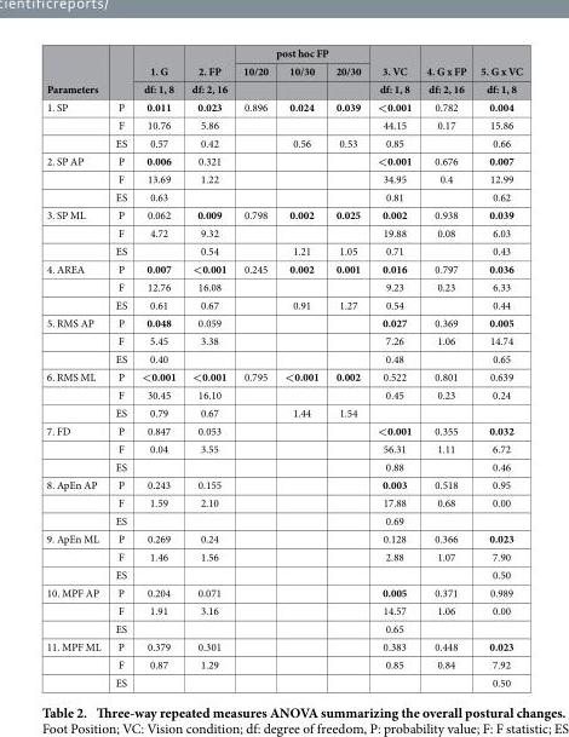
<table><thead><tr><td rowspan="3">Parameters</td><td rowspan="3"></td><td rowspan="3">1. G df: 1, 8</td><td rowspan="3">2. FP df: 2, 16</td><td colspan="3">post hoc FP</td><td rowspan="3">3. VC df: 1, 8</td><td rowspan="3">4. G x FP df: 2, 16</td><td rowspan="3">5. G x VC df: 1, 8</td></tr><tr><td rowspan="2">10/20</td><td rowspan="2">10/30</td><td rowspan="2">20/30</td></tr><tr></tr></thead><tbody><tr><td rowspan="3">1. SP</td><td>P</td><td>0.011</td><td>0.023</td><td>0.896</td><td>0.024</td><td>0.039</td><td>&lt;0.001</td><td>0.782</td><td>0.004</td></tr><tr><td>F</td><td>10.76</td><td>5.86</td><td></td><td></td><td></td><td>44.15</td><td>0.17</td><td>15.86</td></tr><tr><td>ES</td><td>0.57</td><td>0.42</td><td></td><td>0.56</td><td>0.53</td><td>0.85</td><td></td><td>0.66</td></tr><tr><td rowspan="3">2. SP AP</td><td>P</td><td>0.006</td><td>0.321</td><td></td><td></td><td></td><td>&lt;0.001</td><td>0.676</td><td>0.007</td></tr><tr><td>F</td><td>13.69</td><td>1.22</td><td></td><td></td><td></td><td>34.95</td><td>0.4</td><td>12.99</td></tr><tr><td>ES</td><td>0.63</td><td></td><td></td><td></td><td></td><td>0.81</td><td></td><td>0.62</td></tr><tr><td rowspan="3">3. SP ML</td><td>P</td><td>0.062</td><td>0.009</td><td>0.798</td><td>0.002</td><td>0.025</td><td>0.002</td><td>0.938</td><td>0.039</td></tr><tr><td>F</td><td>4.72</td><td>9.32</td><td></td><td></td><td></td><td>19.88</td><td>0.08</td><td>6.03</td></tr><tr><td>ES</td><td></td><td>0.54</td><td></td><td>1.21</td><td>1.05</td><td>0.71</td><td></td><td>0.43</td></tr><tr><td rowspan="3">4. AREA</td><td>P</td><td>0.007</td><td>&lt;0.001</td><td>0.245</td><td>0.002</td><td>0.001</td><td>0.016</td><td>0.797</td><td>0.036</td></tr><tr><td>F</td><td>12.76</td><td>16.08</td><td></td><td></td><td></td><td>9.23</td><td>0.23</td><td>6.33</td></tr><tr><td>ES</td><td>0.61</td><td>0.67</td><td></td><td>0.91</td><td>1.27</td><td>0.54</td><td></td><td>0.44</td></tr><tr><td rowspan="3">5. RMS AP</td><td>P</td><td>0.048</td><td>0.059</td><td></td><td></td><td></td><td>0.027</td><td>0.369</td><td>0.005</td></tr><tr><td>F</td><td>5.45</td><td>3.38</td><td></td><td></td><td></td><td>7.26</td><td>1.06</td><td>14.74</td></tr><tr><td>ES</td><td>0.40</td><td></td><td></td><td></td><td></td><td>0.48</td><td></td><td>0.65</td></tr><tr><td rowspan="3">6. RMS ML</td><td>P</td><td>&lt;0.001</td><td>&lt;0.001</td><td>0.795</td><td>&lt;0.001</td><td>0.002</td><td>0.522</td><td>0.801</td><td>0.639</td></tr><tr><td>F</td><td>30.45</td><td>16.10</td><td></td><td></td><td></td><td>0.45</td><td>0.23</td><td>0.24</td></tr><tr><td>ES</td><td>0.79</td><td>0.67</td><td></td><td>1.44</td><td>1.54</td><td></td><td></td><td></td></tr><tr><td rowspan="3">7. FD</td><td>P</td><td>0.847</td><td>0.053</td><td></td><td></td><td></td><td>&lt;0.001</td><td>0.355</td><td>0.032</td></tr><tr><td>F</td><td>0.04</td><td>3.55</td><td></td><td></td><td></td><td>56.31</td><td>1.11</td><td>6.72</td></tr><tr><td>ES</td><td></td><td></td><td></td><td></td><td></td><td>0.88</td><td></td><td>0.46</td></tr><tr><td rowspan="3">8. ApEn AP</td><td>P</td><td>0.243</td><td>0.155</td><td></td><td></td><td></td><td>0.003</td><td>0.518</td><td>0.95</td></tr><tr><td>F</td><td>1.59</td><td>2.10</td><td></td><td></td><td></td><td>17.88</td><td>0.68</td><td>0.00</td></tr><tr><td>ES</td><td></td><td></td><td></td><td></td><td></td><td>0.69</td><td></td><td></td></tr><tr><td rowspan="3">9. ApEn ML</td><td>P</td><td>0.269</td><td>0.24</td><td></td><td></td><td></td><td>0.128</td><td>0.366</td><td>0.023</td></tr><tr><td>F</td><td>1.46</td><td>1.56</td><td></td><td></td><td></td><td>2.88</td><td>1.07</td><td>7.90</td></tr><tr><td>ES</td><td></td><td></td><td></td><td></td><td></td><td></td><td></td><td>0.50</td></tr><tr><td rowspan="3">10. MPF AP</td><td>P</td><td>0.204</td><td>0.071</td><td></td><td></td><td></td><td>0.005</td><td>0.371</td><td>0.989</td></tr><tr><td>F</td><td>1.91</td><td>3.16</td><td></td><td></td><td></td><td>14.57</td><td>1.06</td><td>0.00</td></tr><tr><td>ES</td><td></td><td></td><td></td><td></td><td></td><td>0.65</td><td></td><td></td></tr><tr><td rowspan="3">11. MPF ML</td><td>P</td><td>0.379</td><td>0.301</td><td></td><td></td><td></td><td>0.383</td><td>0.448</td><td>0.023</td></tr><tr><td>F</td><td>0.87</td><td>1.29</td><td></td><td></td><td></td><td>0.85</td><td>0.84</td><td>7.92</td></tr><tr><td>ES</td><td></td><td></td><td></td><td></td><td></td><td></td><td></td><td>0.50</td></tr></tbody></table>